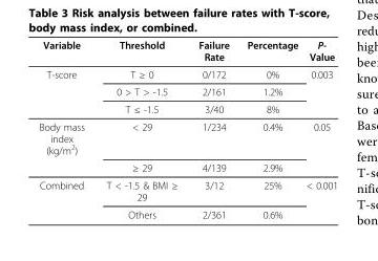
<table><thead><tr><td>Variable</td><td>Threshold</td><td>Failure Rate</td><td>Percentage</td><td>P- Value</td></tr></thead><tbody><tr><td rowspan="3">T-score</td><td>T ≥ 0</td><td>0/172</td><td>0%</td><td>0.003</td></tr><tr><td>0 &gt; T &gt; -1.5</td><td>2/161</td><td>1.2%</td><td></td></tr><tr><td>T ≤ -1.5</td><td>3/40</td><td>8%</td><td></td></tr><tr><td rowspan="2">Body mass index (kg/m<sup>2</sup>)</td><td>&lt; 29</td><td>1/234</td><td>0.4%</td><td>0.05</td></tr><tr><td>≥ 29</td><td>4/139</td><td>2.9%</td><td></td></tr><tr><td rowspan="2">Combined</td><td>T &lt; -1.5 &amp; BMI ≥ 29</td><td>3/12</td><td>25%</td><td>&lt; 0.001</td></tr><tr><td>Others</td><td>2/361</td><td>0.6%</td><td></td></tr></tbody></table>